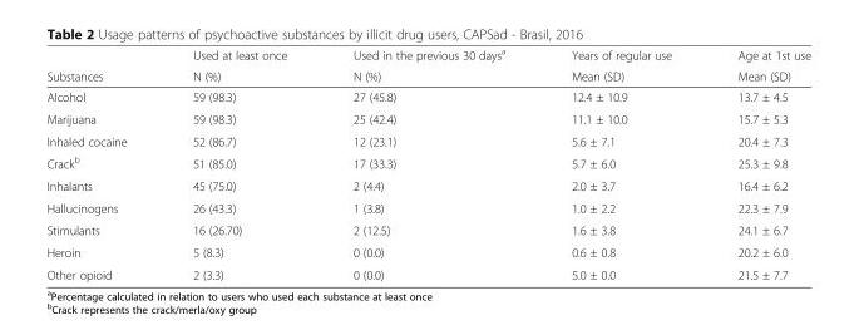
<table><thead><tr><td rowspan="2">Substances</td><td rowspan="2">Used at least once N (%)</td><td rowspan="2">Used in the previous 30 days<sup>a</sup> N (%)</td><td rowspan="2">Years of regular use Mean (SD)</td><td rowspan="2">Age at 1st use Mean (SD)</td></tr><tr></tr></thead><tbody><tr><td>Alcohol</td><td>59 (98.3)</td><td>27 (45.8)</td><td>12.4 ± 10.9</td><td>13.7 ± 4.5</td></tr><tr><td>Marijuana</td><td>59 (98.3)</td><td>25 (42.4)</td><td>11.1 ± 10.0</td><td>15.7 ± 5.3</td></tr><tr><td>Inhaled cocaine</td><td>52 (86.7)</td><td>12 (23.1)</td><td>5.6 ± 7.1</td><td>20.4 ± 7.3</td></tr><tr><td>Crack<sup>b</sup></td><td>51 (85.0)</td><td>17 (33.3)</td><td>5.7 ± 6.0</td><td>25.3 ± 9.8</td></tr><tr><td>Inhalants</td><td>45 (75.0)</td><td>2 (4.4)</td><td>2.0 ± 3.7</td><td>16.4 ± 6.2</td></tr><tr><td>Hallucinogens</td><td>26 (43.3)</td><td>1 (3.8)</td><td>1.0 ± 2.2</td><td>22.3 ± 7.9</td></tr><tr><td>Stimulants</td><td>16 (26.70)</td><td>2 (12.5)</td><td>1.6 ± 3.8</td><td>24.1 ± 6.7</td></tr><tr><td>Heroin</td><td>5 (8.3)</td><td>0 (0.0)</td><td>0.6 ± 0.8</td><td>20.2 ± 6.0</td></tr><tr><td>Other opioid</td><td>2 (3.3)</td><td>0 (0.0)</td><td>5.0 ± 0.0</td><td>21.5 ± 7.7</td></tr></tbody></table>